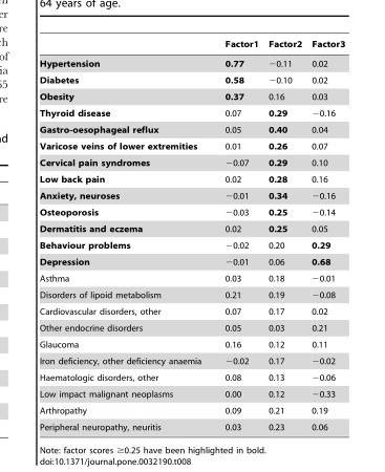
<table><thead><tr><td></td><td>Factor1</td><td>Factor2</td><td>Factor3</td></tr></thead><tbody><tr><td>Hypertension</td><td>0.77</td><td>−0.11</td><td>0.02</td></tr><tr><td>Diabetes</td><td>0.58</td><td>−0.10</td><td>0.02</td></tr><tr><td>Obesity</td><td>0.37</td><td>0.16</td><td>0.03</td></tr><tr><td>Thyroid disease</td><td>0.07</td><td>0.29</td><td>−0.16</td></tr><tr><td>Gastro-oesophageal reflux</td><td>0.05</td><td>0.40</td><td>0.04</td></tr><tr><td>Varicose veins of lower extremities</td><td>0.01</td><td>0.26</td><td>0.07</td></tr><tr><td>Cervical pain syndromes</td><td>−0.07</td><td>0.29</td><td>0.10</td></tr><tr><td>Low back pain</td><td>0.02</td><td>0.28</td><td>0.16</td></tr><tr><td>Anxiety, neuroses</td><td>−0.01</td><td>0.34</td><td>−0.16</td></tr><tr><td>Osteoporosis</td><td>−0.03</td><td>0.25</td><td>−0.14</td></tr><tr><td>Dermatitis and eczema</td><td>0.02</td><td>0.25</td><td>0.05</td></tr><tr><td>Behaviour problems</td><td>−0.02</td><td>0.20</td><td>0.29</td></tr><tr><td>Depression</td><td>−0.01</td><td>0.06</td><td>0.68</td></tr><tr><td>Asthma</td><td>0.03</td><td>0.18</td><td>−0.01</td></tr><tr><td>Disorders of lipoid metabolism</td><td>0.21</td><td>0.19</td><td>−0.08</td></tr><tr><td>Cardiovascular disorders, other</td><td>0.07</td><td>0.17</td><td>0.02</td></tr><tr><td>Other endocrine disorders</td><td>0.05</td><td>0.03</td><td>0.21</td></tr><tr><td>Glaucoma</td><td>0.16</td><td>0.12</td><td>0.11</td></tr><tr><td>Iron deficiency, other deficiency anaemia</td><td>−0.02</td><td>0.17</td><td>−0.02</td></tr><tr><td>Haematologic disorders, other</td><td>0.08</td><td>0.13</td><td>−0.06</td></tr><tr><td>Low impact malignant neoplasms</td><td>0.00</td><td>0.12</td><td>−0.33</td></tr><tr><td>Arthropathy</td><td>0.09</td><td>0.21</td><td>0.19</td></tr><tr><td>Peripheral neuropathy, neuritis</td><td>0.03</td><td>0.23</td><td>0.06</td></tr></tbody></table>